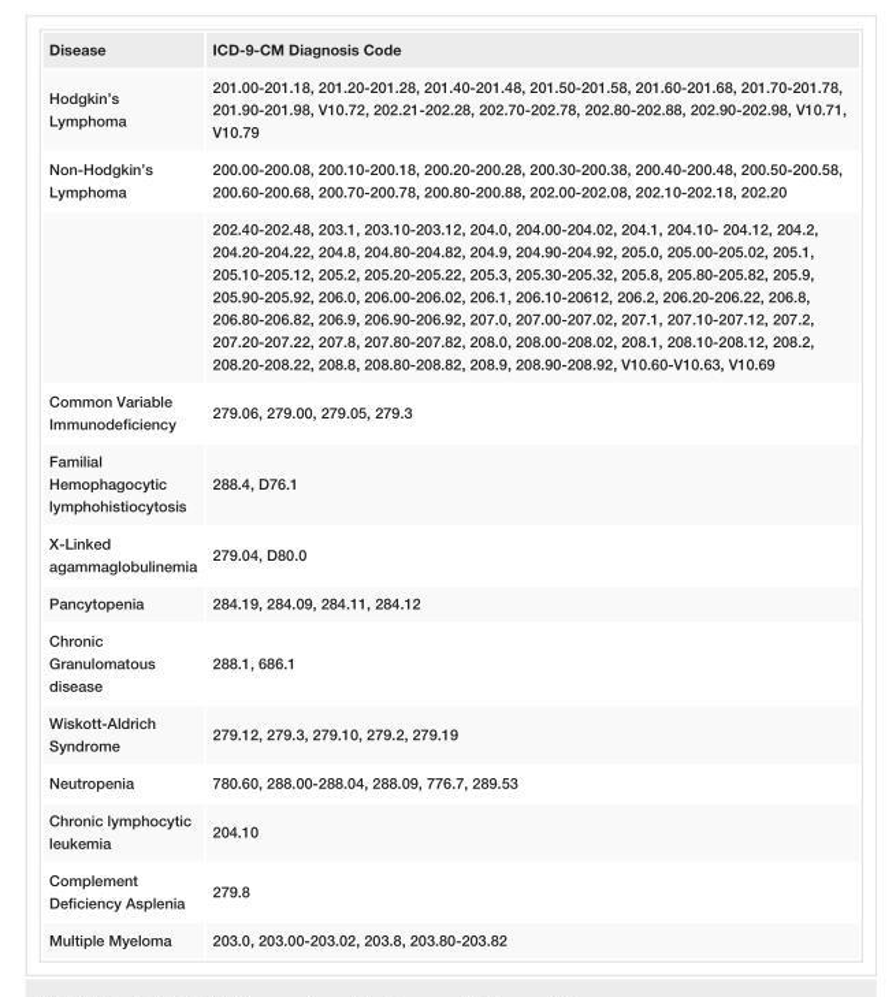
<table><tbody><tr><td>Disease</td><td>ICD-9-CM Diagnosis Code</td></tr><tr><td>Hodgkin’s Lymphoma</td><td>201.00-201.18, 201.20-201.28, 201.40-201.48, 201.50-201.58, 201.60-201.68, 201.70-201.78, 201.90-201.98, V10.72, 202.21-202.28, 202.70-202.78, 202.80-202.88, 202.90-202.98, V10.71, V10.79</td></tr><tr><td rowspan="2">Non-Hodgkin’s Lymphoma</td><td>200.00-200.08, 200.10-200.18, 200.20-200.28, 200.30-200.38, 200.40-200.48, 200.50-200.58, 200.60-200.68, 200.70-200.78, 200.80-200.88, 202.00-202.08, 202.10-202.18, 202.20</td></tr><tr><td>202.40-202.48, 203.1, 203.10-203.12, 204.0, 204.00-204.02, 204.1, 204.10- 204.12, 204.2, 204.20-204.22, 204.8, 204.80-204.82, 204.9, 204.90-204.92, 205.0, 205.00-205.02, 205.1, 205.10-205.12, 205.2, 205.20-205.22, 205.3, 205.30-205.32, 205.8, 205.80-205.82, 205.9, 205.90-205.92, 206.0, 206.00-206.02, 206.1, 206.10-20612, 206.2, 206.20-206.22, 206.8, 206.80-206.82, 206.9, 206.90-206.92, 207.0, 207.00-207.02, 207.1, 207.10-207.12, 207.2, 207.20-207.22, 207.8, 207.80-207.82, 208.0, 208.00-208.02, 208.1, 208.10-208.12, 208.2, 208.20-208.22, 208.8, 208.80-208.82, 208.9, 208.90-208.92, V10.60-V10.63, V10.69</td></tr><tr><td>Common Variable Immunodeficiency</td><td>279.06, 279.00, 279.05, 279.3</td></tr><tr><td>Familial Hemophagocytic lymphohistiocytosis</td><td>288.4, D76.1</td></tr><tr><td>X-Linked agammaglobulinemia</td><td>279.04, D80.0</td></tr><tr><td>Pancytopenia</td><td>284.19, 284.09, 284.11, 284.12</td></tr><tr><td>Chronic Granulomatous disease</td><td>288.1, 686.1</td></tr><tr><td>Wiskott-Aldrich Syndrome</td><td>279.12, 279.3, 279.10, 279.2, 279.19</td></tr><tr><td>Neutropenia</td><td>780.60, 288.00-288.04, 288.09, 776.7, 289.53</td></tr><tr><td>Chronic lymphocytic leukemia</td><td>204.10</td></tr><tr><td>Complement Deficiency Asplenia</td><td>279.8</td></tr><tr><td>Multiple Myeloma</td><td>203.0, 203.00-203.02, 203.8, 203.80-203.82</td></tr></tbody></table>